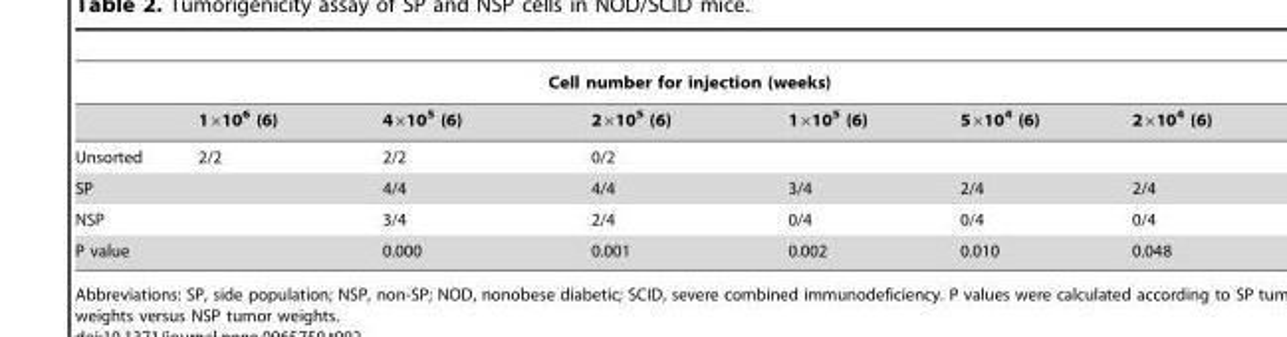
<table><thead><tr><td colspan="7">Cell number for injection (weeks)</td></tr><tr><td colspan="2">1×10<sup>6</sup> (6)</td><td rowspan="2">4×10<sup>5</sup> (6) 2/2</td><td rowspan="2">2×10<sup>5</sup> (6) 0/2</td><td rowspan="2">1×10<sup>5</sup> (6)</td><td rowspan="2">5×10<sup>4</sup> (6)</td><td rowspan="2">2×10<sup>4</sup> (6)</td></tr><tr><td>Unsorted</td><td>2/2</td></tr></thead><tbody><tr><td>SP</td><td></td><td>4/4</td><td>4/4</td><td>3/4</td><td>2/4</td><td>2/4</td></tr><tr><td>NSP</td><td></td><td>3/4</td><td>2/4</td><td>0/4</td><td>0/4</td><td>0/4</td></tr><tr><td>P value</td><td></td><td>0.000</td><td>0.001</td><td>0.002</td><td>0.010</td><td>0.048</td></tr></tbody></table>